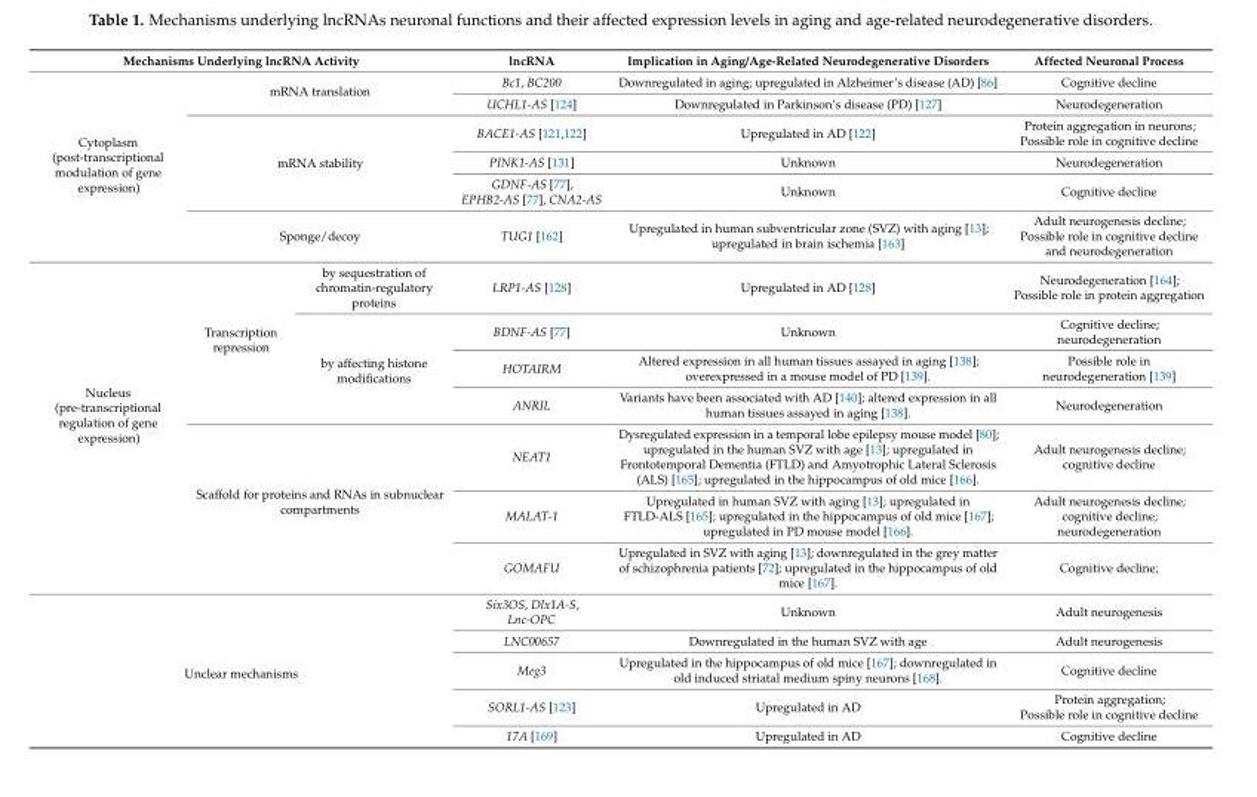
<table><thead><tr><td colspan="3">Mechanisms Underlying lncRNA Activity</td><td>lncRNA</td><td>Implication in Aging/Age-Related Neurodegenerative Disorders</td><td>Affected Neuronal Process</td></tr></thead><tbody><tr><td rowspan="6">Cytoplasm (post-transcriptional modulation of gene expression)</td><td rowspan="2" colspan="2">mRNA translation</td><td>Bc1, BC200</td><td>Downregulated in aging; upregulated in Alzheimer’s disease (AD) [86]</td><td>Cognitive decline</td></tr><tr><td>UCHL1-AS [124]</td><td>Downregulated in Parkinson’s disease (PD) [127]</td><td>Neurodegeneration</td></tr><tr><td rowspan="3" colspan="2">mRNA stability</td><td>BACE1-AS [121,122]</td><td>Upregulated in AD [122]</td><td>Protein aggregation in neurons; Possible role in cognitive decline</td></tr><tr><td>PINK1-AS [131]</td><td>Unknown</td><td>Neurodegeneration</td></tr><tr><td>GDNF-AS [77], EPHB2-AS [77], CNA2-AS</td><td>Unknown</td><td>Cognitive decline</td></tr><tr><td colspan="2">Sponge/decoy</td><td>TUG1 [162]</td><td>Upregulated in human subventricular zone (SVZ) with aging [13]; upregulated in brain ischemia [163]</td><td>Adult neurogenesis decline; Possible role in cognitive decline and neurodegeneration</td></tr><tr><td rowspan="7">Nucleus (pre-transcriptional regulation of gene expression)</td><td rowspan="4">Transcription repression</td><td>by sequestration of chromatin-regulatory proteins</td><td>LRP1-AS [128]</td><td>Upregulated in AD [128]</td><td>Neurodegeneration [164]; Possible role in protein aggregation</td></tr><tr><td rowspan="3">by affecting histone modifications</td><td>BDNF-AS [77]</td><td>Unknown</td><td>Cognitive decline; neurodegeneration</td></tr><tr><td>HOTAIRM</td><td>Altered expression in all human tissues assayed in aging [138]; overexpressed in a mouse model of PD [139].</td><td>Possible role in neurodegeneration [139]</td></tr><tr><td>ANRIL</td><td>Variants have been associated with AD [140]; altered expression in all human tissues assayed in aging [138].</td><td>Neurodegeneration</td></tr><tr><td rowspan="3" colspan="2">Scaffold for proteins and RNAs in subnuclear compartments</td><td>NEAT1</td><td>Dysregulated expression in a temporal lobe epilepsy mouse model [80]; upregulated in the human SVZ with age [13]; upregulated in Frontotemporal Dementia (FTLD) and Amyotrophic Lateral Sclerosis (ALS) [165]; upregulated in the hippocampus of old mice [166].</td><td>Adult neurogenesis decline; cognitive decline</td></tr><tr><td>MALAT-1</td><td>Upregulated in human SVZ with aging [13]; upregulated in FTLD-ALS [165]; upregulated in the hippocampus of old mice [167]; upregulated in PD mouse model [166].</td><td>Adult neurogenesis decline; cognitive decline; neurodegeneration</td></tr><tr><td>GOMAFU</td><td>Upregulated in SVZ with aging [13]; downregulated in the grey matter of schizophrenia patients [72]; upregulated in the hippocampus of old mice [167].</td><td>Cognitive decline;</td></tr><tr><td rowspan="5" colspan="3">Unclear mechanisms</td><td>Six3OS, Dlx1A-S, Lnc-OPC</td><td>Unknown</td><td>Adult neurogenesis</td></tr><tr><td>LNC00657</td><td>Downregulated in the human SVZ with age</td><td>Adult neurogenesis</td></tr><tr><td>Meg3</td><td>Upregulated in the hippocampus of old mice [167]; downregulated in old induced striatal medium spiny neurons [168].</td><td>Cognitive decline</td></tr><tr><td>SORL1-AS [123]</td><td>Upregulated in AD</td><td>Protein aggregation; Possible role in cognitive decline</td></tr><tr><td>17A [169]</td><td>Upregulated in AD</td><td>Cognitive decline</td></tr></tbody></table>